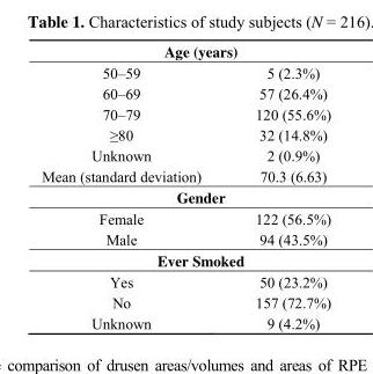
<table><tbody><tr><td colspan="2">Age (years)</td></tr><tr><td>50–59</td><td>5 (2.3%)</td></tr><tr><td>60–69</td><td>57 (26.4%)</td></tr><tr><td>70–79</td><td>120 (55.6%)</td></tr><tr><td>≥80</td><td>32 (14.8%)</td></tr><tr><td>Unknown</td><td>2 (0.9%)</td></tr><tr><td>Mean (standard deviation)</td><td>70.3 (6.63)</td></tr><tr><td colspan="2">Gender</td></tr><tr><td>Female</td><td>122 (56.5%)</td></tr><tr><td>Male</td><td>94 (43.5%)</td></tr><tr><td colspan="2">Ever Smoked</td></tr><tr><td>Yes</td><td>50 (23.2%)</td></tr><tr><td>No</td><td>157 (72.7%)</td></tr><tr><td>Unknown</td><td>9 (4.2%)</td></tr></tbody></table>